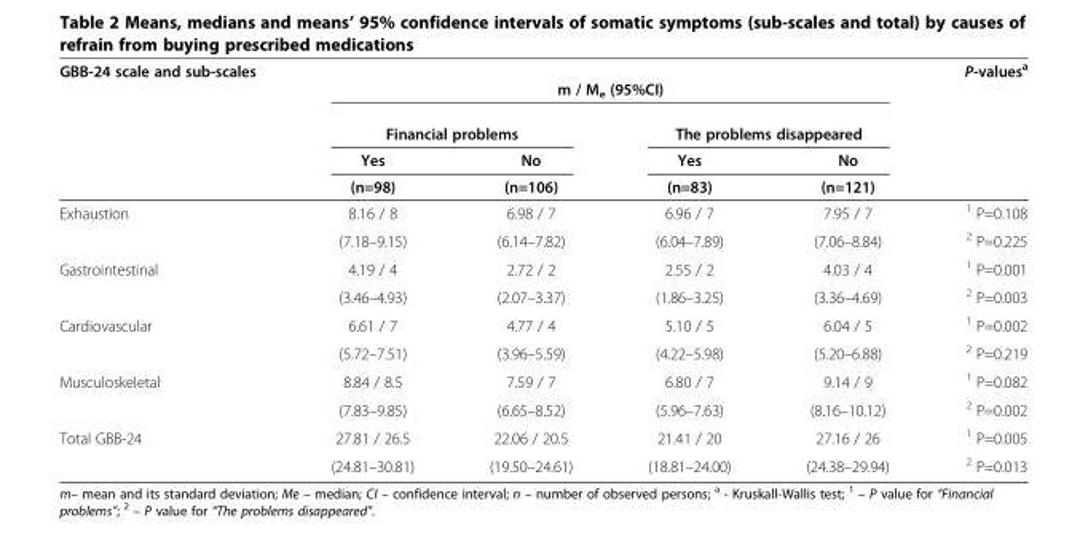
<table><thead><tr><td rowspan="4">GBB-24 scale and sub-scales</td><td colspan="4">m / M<sub>e</sub> (95%CI)</td><td rowspan="4">P-values<sup>a</sup></td></tr><tr><td colspan="2">Financial problems</td><td colspan="2">The problems disappeared</td></tr><tr><td rowspan="2">Yes (n=98)</td><td rowspan="2">No (n=106)</td><td rowspan="2">Yes (n=83)</td><td rowspan="2">No (n=121)</td></tr><tr></tr></thead><tbody><tr><td rowspan="2">Exhaustion</td><td>8.16 / 8</td><td>6.98 / 7</td><td>6.96 / 7</td><td>7.95 / 7</td><td><sup>1</sup> P=0.108</td></tr><tr><td>(7.18–9.15)</td><td>(6.14–7.82)</td><td>(6.04–7.89)</td><td>(7.06–8.84)</td><td><sup>2</sup> P=0.225</td></tr><tr><td rowspan="2">Gastrointestinal</td><td>4.19 / 4</td><td>2.72 / 2</td><td>2.55 / 2</td><td>4.03 / 4</td><td><sup>1</sup> P=0.001</td></tr><tr><td>(3.46–4.93)</td><td>(2.07–3.37)</td><td>(1.86–3.25)</td><td>(3.36–4.69)</td><td><sup>2</sup> P=0.003</td></tr><tr><td rowspan="2">Cardiovascular</td><td>6.61 / 7</td><td>4.77 / 4</td><td>5.10 / 5</td><td>6.04 / 5</td><td><sup>1</sup> P=0.002</td></tr><tr><td>(5.72–7.51)</td><td>(3.96–5.59)</td><td>(4.22–5.98)</td><td>(5.20–6.88)</td><td><sup>2</sup> P=0.219</td></tr><tr><td rowspan="2">Musculoskeletal</td><td>8.84 / 8.5</td><td>7.59 / 7</td><td>6.80 / 7</td><td>9.14 / 9</td><td><sup>1</sup> P=0.082</td></tr><tr><td>(7.83–9.85)</td><td>(6.65–8.52)</td><td>(5.96–7.63)</td><td>(8.16–10.12)</td><td><sup>2</sup> P=0.002</td></tr><tr><td rowspan="2">Total GBB-24</td><td>27.81 / 26.5</td><td>22.06 / 20.5</td><td>21.41 / 20</td><td>27.16 / 26</td><td><sup>1</sup> P=0.005</td></tr><tr><td>(24.81–30.81)</td><td>(19.50–24.61)</td><td>(18.81–24.00)</td><td>(24.38–29.94)</td><td><sup>2</sup> P=0.013</td></tr></tbody></table>